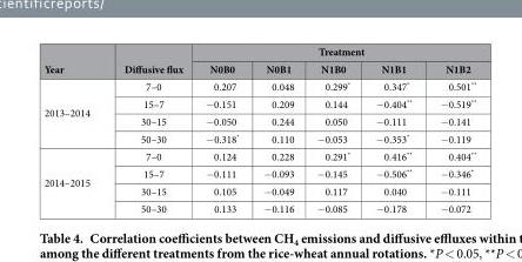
<table><thead><tr><td rowspan="2">Year</td><td rowspan="2">Diffusive flux</td><td colspan="5">Treatment</td></tr><tr><td>N0B0</td><td>N0B1</td><td>N1B0</td><td>N1B1</td><td>N1B2</td></tr></thead><tbody><tr><td rowspan="4">2013–2014</td><td>7–0</td><td>0.207</td><td>0.048</td><td>0.299*</td><td>0.347*</td><td>0.501**</td></tr><tr><td>15–7</td><td>− 0.151</td><td>0.209</td><td>0.144</td><td>− 0.404**</td><td>− 0.519**</td></tr><tr><td>30–15</td><td>− 0.050</td><td>0.244</td><td>0.050</td><td>− 0.111</td><td>− 0.141</td></tr><tr><td>50–30</td><td>− 0.318*</td><td>0.110</td><td>− 0.053</td><td>− 0.353*</td><td>− 0.119</td></tr><tr><td rowspan="4">2014–2015</td><td>7–0</td><td>0.124</td><td>0.228</td><td>0.291*</td><td>0.416**</td><td>0.404**</td></tr><tr><td>15–7</td><td>− 0.111</td><td>− 0.093</td><td>− 0.145</td><td>− 0.506**</td><td>− 0.346*</td></tr><tr><td>30–15</td><td>0.105</td><td>− 0.049</td><td>0.117</td><td>0.040</td><td>− 0.111</td></tr><tr><td>50–30</td><td>0.133</td><td>− 0.116</td><td>− 0.085</td><td>− 0.178</td><td>− 0.072</td></tr></tbody></table>